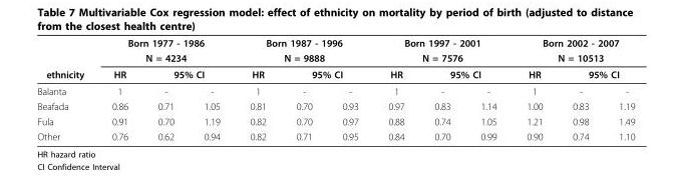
<table><thead><tr><td rowspan="4">ethnicity Balanta</td><td rowspan="2" colspan="3">Born 1977 - 1986 N = 4234</td><td rowspan="2" colspan="3">Born 1987 - 1996 N = 9888</td><td rowspan="2" colspan="3">Born 1997 - 2001 N = 7576</td><td rowspan="2" colspan="3">Born 2002 - 2007 N = 10513</td></tr><tr></tr><tr><td rowspan="2">HR 1</td><td colspan="2">95% CI</td><td rowspan="2">HR 1</td><td colspan="2">95% CI</td><td rowspan="2">HR 1</td><td colspan="2">95% CI</td><td rowspan="2">HR 1</td><td colspan="2">95% CI</td></tr><tr><td>-</td><td>-</td><td>-</td><td>-</td><td>-</td><td>-</td><td>-</td><td>-</td></tr></thead><tbody><tr><td>Beafada</td><td>0.86</td><td>0.71</td><td>1.05</td><td>0.81</td><td>0.70</td><td>0.93</td><td>0.97</td><td>0.83</td><td>1.14</td><td>1.00</td><td>0.83</td><td>1.19</td></tr><tr><td>Fula</td><td>0.91</td><td>0.70</td><td>1.19</td><td>0.82</td><td>0.70</td><td>0.97</td><td>0.88</td><td>0.74</td><td>1.05</td><td>1.21</td><td>0.98</td><td>1.49</td></tr><tr><td>Other</td><td>0.76</td><td>0.62</td><td>0.94</td><td>0.82</td><td>0.71</td><td>0.95</td><td>0.84</td><td>0.70</td><td>0.99</td><td>0.90</td><td>0.74</td><td>1.10</td></tr></tbody></table>